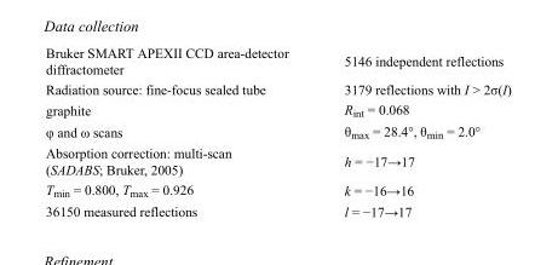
<table><tbody><tr><td>Bruker SMART APEXII CCD area-detector diffractometer</td><td>5146 independent reflections</td></tr><tr><td>Radiation source: fine-focus sealed tube</td><td>3179 reflections with I &gt; 2σ(I)</td></tr><tr><td>graphite</td><td>R<sub>int</sub> = 0.068</td></tr><tr><td>φ and ω scans</td><td>θ<sub>max</sub> = 28.4°, θ<sub>min</sub> = 2.0°</td></tr><tr><td>Absorption correction: multi-scan (SADABS; Bruker, 2005)</td><td>h = −17→17</td></tr><tr><td>T<sub>min</sub> = 0.800, T<sub>max</sub> = 0.926</td><td>k = −16→16</td></tr><tr><td>36150 measured reflections</td><td>l = −17→17</td></tr></tbody></table>